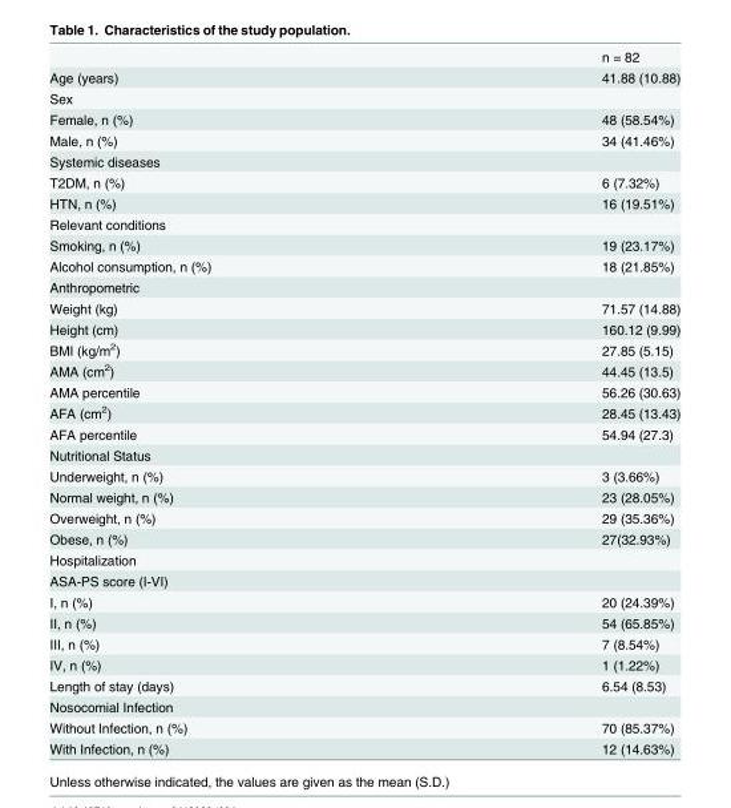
<table><thead><tr><td></td><td>n = 82</td></tr></thead><tbody><tr><td>Age (years)</td><td>41.88 (10.88)</td></tr><tr><td colspan="2">Sex</td></tr><tr><td>Female, n (%)</td><td>48 (58.54%)</td></tr><tr><td>Male, n (%)</td><td>34 (41.46%)</td></tr><tr><td colspan="2">Systemic diseases</td></tr><tr><td>T2DM, n (%)</td><td>6 (7.32%)</td></tr><tr><td>HTN, n (%)</td><td>16 (19.51%)</td></tr><tr><td colspan="2">Relevant conditions</td></tr><tr><td>Smoking, n (%)</td><td>19 (23.17%)</td></tr><tr><td>Alcohol consumption, n (%)</td><td>18 (21.85%)</td></tr><tr><td colspan="2">Anthropometric</td></tr><tr><td>Weight (kg)</td><td>71.57 (14.88)</td></tr><tr><td>Height (cm)</td><td>160.12 (9.99)</td></tr><tr><td>BMI (kg/m<sup>2</sup>)</td><td>27.85 (5.15)</td></tr><tr><td>AMA (cm<sup>2</sup>)</td><td>44.45 (13.5)</td></tr><tr><td>AMA percentile</td><td>56.26 (30.63)</td></tr><tr><td>AFA (cm<sup>2</sup>)</td><td>28.45 (13.43)</td></tr><tr><td>AFA percentile</td><td>54.94 (27.3)</td></tr><tr><td colspan="2">Nutritional Status</td></tr><tr><td>Underweight, n (%)</td><td>3 (3.66%)</td></tr><tr><td>Normal weight, n (%)</td><td>23 (28.05%)</td></tr><tr><td>Overweight, n (%)</td><td>29 (35.36%)</td></tr><tr><td>Obese, n (%)</td><td>27(32.93%)</td></tr><tr><td colspan="2">Hospitalization</td></tr><tr><td colspan="2">ASA-PS score (I-VI)</td></tr><tr><td>I, n (%)</td><td>20 (24.39%)</td></tr><tr><td>II, n (%)</td><td>54 (65.85%)</td></tr><tr><td>III, n (%)</td><td>7 (8.54%)</td></tr><tr><td>IV, n (%)</td><td>1 (1.22%)</td></tr><tr><td>Length of stay (days)</td><td>6.54 (8.53)</td></tr><tr><td colspan="2">Nosocomial Infection</td></tr><tr><td>Without Infection, n (%)</td><td>70 (85.37%)</td></tr><tr><td>With Infection, n (%)</td><td>12 (14.63%)</td></tr></tbody></table>